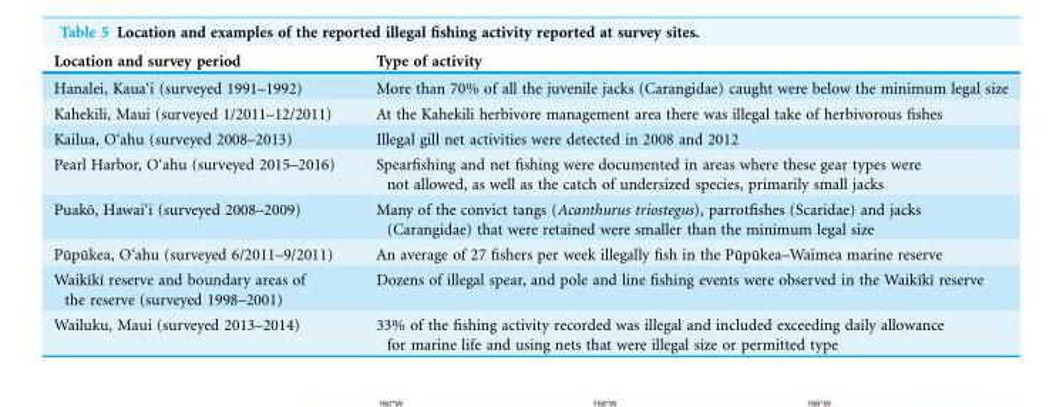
<table><thead><tr><td>Location and survey period</td><td>Type of activity</td></tr></thead><tbody><tr><td>Hanalei, Kaua‘i (surveyed 1991–1992)</td><td>More than 70% of all the juvenile jacks (Carangidae) caught were below the minimum legal size</td></tr><tr><td>Kahekili, Maui (surveyed 1/2011–12/2011)</td><td>At the Kahekili herbivore management area there was illegal take of herbivorous fishes</td></tr><tr><td>Kailua, O‘ahu (surveyed 2008–2013)</td><td>Illegal gill net activities were detected in 2008 and 2012</td></tr><tr><td>Pearl Harbor, O‘ahu (surveyed 2015–2016)</td><td>Spearfishing and net fishing were documented in areas where these gear types were not allowed, as well as the catch of undersized species, primarily small jacks</td></tr><tr><td>Puako¯, Hawai‘i (surveyed 2008–2009)</td><td>Many of the convict tangs (Acanthurus triostegus), parrotfishes (Scaridae) and jacks (Carangidae) that were retained were smaller than the minimum legal size</td></tr><tr><td>Pu¯pu¯kea, O‘ahu (surveyed 6/2011–9/2011)</td><td>An average of 27 fishers per week illegally fish in the Pu¯pu¯kea–Waimea marine reserve</td></tr><tr><td>Waikı¯kı¯ reserve and boundary areas of the reserve (surveyed 1998–2001)</td><td>Dozens of illegal spear, and pole and line fishing events were observed in the Waikı¯kı¯ reserve</td></tr><tr><td>Wailuku, Maui (surveyed 2013–2014)</td><td>33% of the fishing activity recorded was illegal and included exceeding daily allowance for marine life and using nets that were illegal size or permitted type</td></tr></tbody></table>